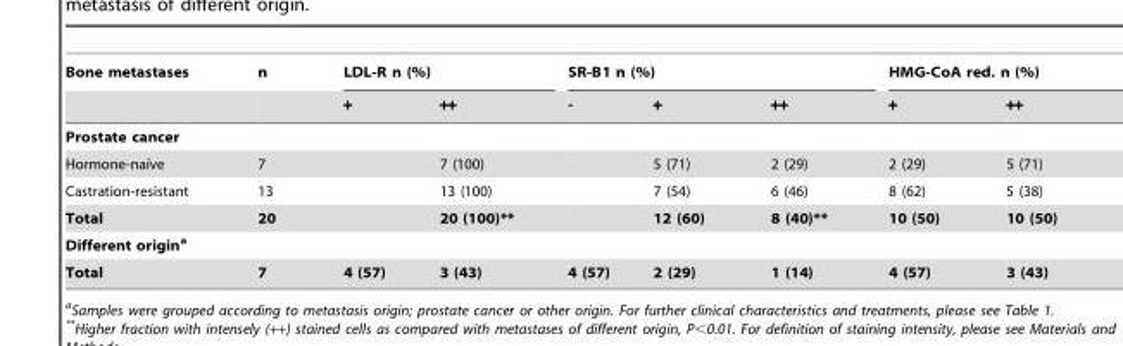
<table><thead><tr><td rowspan="2">Bone metastases</td><td rowspan="2">n</td><td colspan="2">LDL-R n (%)</td><td colspan="3">SR-B1 n (%)</td><td colspan="2">HMG-CoA red. n (%)</td></tr><tr><td>+</td><td>++</td><td>-</td><td>+</td><td>++</td><td>+</td><td>++</td></tr></thead><tbody><tr><td colspan="9">Prostate cancer</td></tr><tr><td>Hormone-naı´ve</td><td>7</td><td></td><td>7 (100)</td><td></td><td>5 (71)</td><td>2 (29)</td><td>2 (29)</td><td>5 (71)</td></tr><tr><td>Castration-resistant</td><td>13</td><td></td><td>13 (100)</td><td></td><td>7 (54)</td><td>6 (46)</td><td>8 (62)</td><td>5 (38)</td></tr><tr><td>Total</td><td>20</td><td></td><td>20 (100)**</td><td></td><td>12 (60)</td><td>8 (40)**</td><td>10 (50)</td><td>10 (50)</td></tr><tr><td colspan="9">Different origina</td></tr><tr><td>Total</td><td>7</td><td>4 (57)</td><td>3 (43)</td><td>4 (57)</td><td>2 (29)</td><td>1 (14)</td><td>4 (57)</td><td>3 (43)</td></tr></tbody></table>